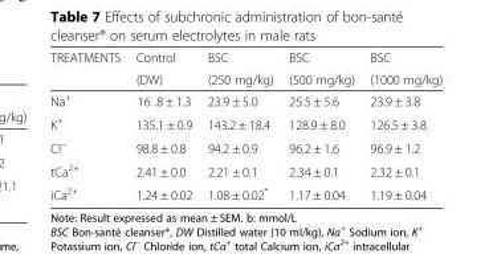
<table><thead><tr><td rowspan="2">TREATMENTS</td><td rowspan="2">Control (DW)</td><td rowspan="2">BSC (250 mg/kg)</td><td rowspan="2">BSC (500 mg/kg)</td><td rowspan="2">BSC (1000 mg/kg)</td></tr><tr></tr></thead><tbody><tr><td>Na<sup>+</sup></td><td>16 .8 ± 1.3</td><td>23.9 ± 5.0</td><td>25.5 ± 5.6</td><td>23.9 ± 3.8</td></tr><tr><td>K<sup>+</sup></td><td>135.1 ± 0.9</td><td>143.2 ± 18.4</td><td>128.9 ± 8.0</td><td>126.5 ± 3.8</td></tr><tr><td>Cl<sup>−</sup></td><td>98.8 ± 0.8</td><td>94.2 ± 0.9</td><td>96.2 ± 1.6</td><td>96.9 ± 1.2</td></tr><tr><td>tCa<sup>2+</sup></td><td>2.41 ± 0.0</td><td>2.21 ± 0.1</td><td>2.34 ± 0.1</td><td>2.32 ± 0.1</td></tr><tr><td>iCa<sup>2+</sup></td><td>1.24 ± 0.02</td><td>1.08 ± 0.02*</td><td>1.17 ± 0.04</td><td>1.19 ± 0.04</td></tr></tbody></table>